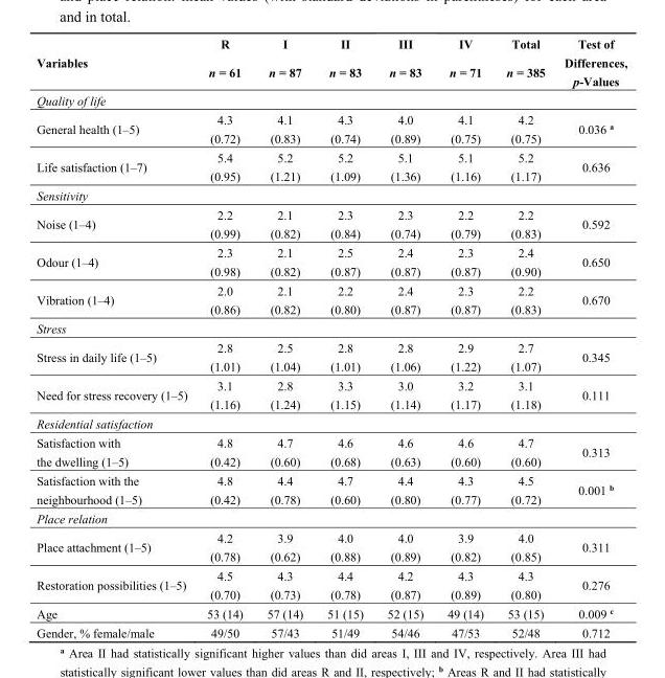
<table><thead><tr><td rowspan="2">Variables</td><td rowspan="2">R n = 61</td><td rowspan="2">I n = 87</td><td rowspan="2">II n = 83</td><td rowspan="2">III n = 83</td><td rowspan="2">IV n = 71</td><td rowspan="2">Total n = 385</td><td rowspan="2">Test of Differences, p-Values</td></tr><tr></tr></thead><tbody><tr><td colspan="8">Quality of life</td></tr><tr><td>General health (1–5)</td><td>4.3 (0.72)</td><td>4.1 (0.83)</td><td>4.3 (0.74)</td><td>4.0 (0.89)</td><td>4.1 (0.75)</td><td>4.2 (0.75)</td><td>0.036 <sup>a</sup></td></tr><tr><td>Life satisfaction (1–7)</td><td>5.4 (0.95)</td><td>5.2 (1.21)</td><td>5.2 (1.09)</td><td>5.1 (1.36)</td><td>5.1 (1.16)</td><td>5.2 (1.17)</td><td>0.636</td></tr><tr><td colspan="8">Sensitivity</td></tr><tr><td>Noise (1–4)</td><td>2.2 (0.99)</td><td>2.1 (0.82)</td><td>2.3 (0.84)</td><td>2.3 (0.74)</td><td>2.2 (0.79)</td><td>2.2 (0.83)</td><td>0.592</td></tr><tr><td>Odour (1–4)</td><td>2.3 (0.98)</td><td>2.1 (0.82)</td><td>2.5 (0.87)</td><td>2.4 (0.87)</td><td>2.3 (0.87)</td><td>2.4 (0.90)</td><td>0.650</td></tr><tr><td>Vibration (1–4)</td><td>2.0 (0.86)</td><td>2.1 (0.82)</td><td>2.2 (0.80)</td><td>2.4 (0.87)</td><td>2.3 (0.87)</td><td>2.2 (0.83)</td><td>0.670</td></tr><tr><td colspan="8">Stress</td></tr><tr><td>Stress in daily life (1–5)</td><td>2.8 (1.01)</td><td>2.5 (1.04)</td><td>2.8 (1.01)</td><td>2.8 (1.06)</td><td>2.9 (1.22)</td><td>2.7 (1.07)</td><td>0.345</td></tr><tr><td>Need for stress recovery (1–5)</td><td>3.1 (1.16)</td><td>2.8 (1.24)</td><td>3.3 (1.15)</td><td>3.0 (1.14)</td><td>3.2 (1.17)</td><td>3.1 (1.18)</td><td>0.111</td></tr><tr><td colspan="8">Residential satisfaction</td></tr><tr><td>Satisfaction with the dwelling (1–5)</td><td>4.8 (0.42)</td><td>4.7 (0.60)</td><td>4.6 (0.68)</td><td>4.6 (0.63)</td><td>4.6 (0.60)</td><td>4.7 (0.60)</td><td>0.313</td></tr><tr><td>Satisfaction with the neighbourhood (1–5)</td><td>4.8 (0.42)</td><td>4.4 (0.78)</td><td>4.7 (0.60)</td><td>4.4 (0.80)</td><td>4.3 (0.77)</td><td>4.5 (0.72)</td><td>0.001 <sup>b</sup></td></tr><tr><td colspan="8">Place relation</td></tr><tr><td>Place attachment (1–5)</td><td>4.2 (0.78)</td><td>3.9 (0.62)</td><td>4.0 (0.88)</td><td>4.0 (0.89)</td><td>3.9 (0.82)</td><td>4.0 (0.85)</td><td>0.311</td></tr><tr><td>Restoration possibilities (1–5)</td><td>4.5 (0.70)</td><td>4.3 (0.73)</td><td>4.4 (0.78)</td><td>4.2 (0.87)</td><td>4.3 (0.89)</td><td>4.3 (0.80)</td><td>0.276</td></tr><tr><td>Age</td><td>53 (14)</td><td>57 (14)</td><td>51 (15)</td><td>52 (15)</td><td>49 (14)</td><td>53 (15)</td><td>0.009 <sup>c</sup></td></tr><tr><td>Gender, % female/male</td><td>49/50</td><td>57/43</td><td>51/49</td><td>54/46</td><td>47/53</td><td>52/48</td><td>0.712</td></tr></tbody></table>